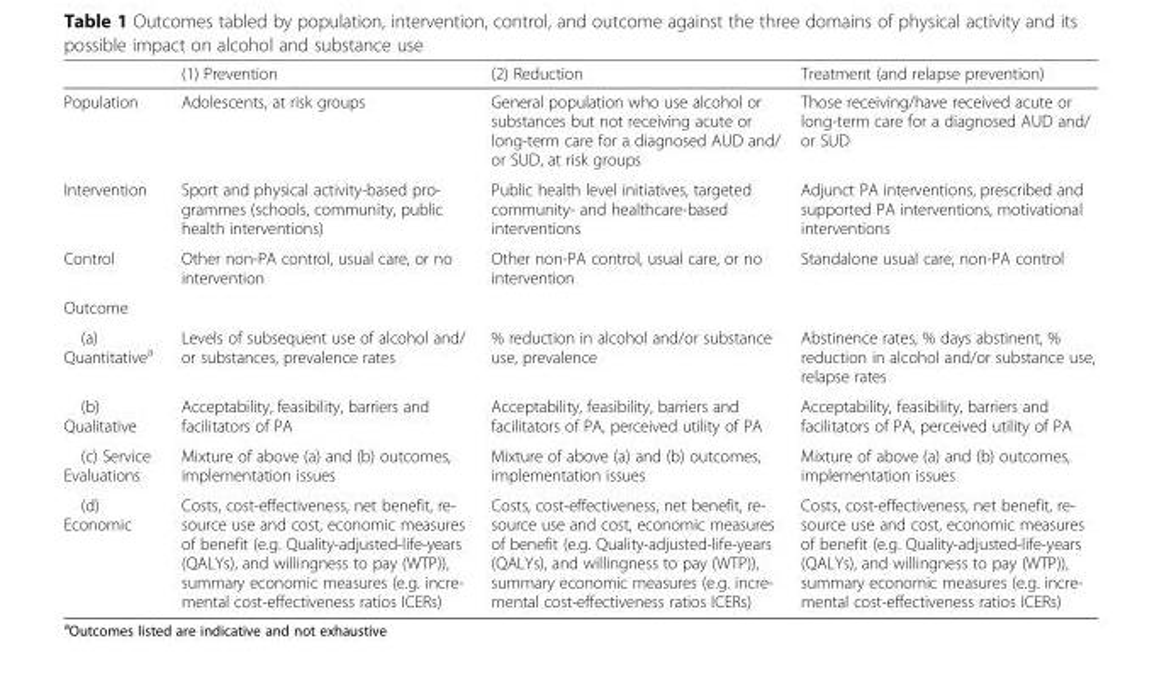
<table><thead><tr><td></td><td>(1) Prevention</td><td>(2) Reduction</td><td>Treatment (and relapse prevention)</td></tr></thead><tbody><tr><td>Population</td><td>Adolescents, at risk groups</td><td>General population who use alcohol or substances but not receiving acute or long-term care for a diagnosed AUD and/ or SUD, at risk groups</td><td>Those receiving/have received acute or long-term care for a diagnosed AUD and/ or SUD</td></tr><tr><td>Intervention</td><td>Sport and physical activity-based pro- grammes (schools, community, public health interventions)</td><td>Public health level initiatives, targeted community- and healthcare-based interventions</td><td>Adjunct PA interventions, prescribed and supported PA interventions, motivational interventions</td></tr><tr><td>Control</td><td>Other non-PA control, usual care, or no intervention</td><td>Other non-PA control, usual care, or no intervention</td><td>Standalone usual care, non-PA control</td></tr><tr><td colspan="4">Outcome</td></tr><tr><td>(a) Quantitative<sup>a</sup></td><td>Levels of subsequent use of alcohol and/ or substances, prevalence rates</td><td>% reduction in alcohol and/or substance use, prevalence</td><td>Abstinence rates, % days abstinent, % reduction in alcohol and/or substance use, relapse rates</td></tr><tr><td>(b) Qualitative</td><td>Acceptability, feasibility, barriers and facilitators of PA</td><td>Acceptability, feasibility, barriers and facilitators of PA, perceived utility of PA</td><td>Acceptability, feasibility, barriers and facilitators of PA, perceived utility of PA</td></tr><tr><td>(c) Service Evaluations</td><td>Mixture of above (a) and (b) outcomes, implementation issues</td><td>Mixture of above (a) and (b) outcomes, implementation issues</td><td>Mixture of above (a) and (b) outcomes, implementation issues</td></tr><tr><td>(d) Economic</td><td>Costs, cost-effectiveness, net benefit, re- source use and cost, economic measures of benefit (e.g. Quality-adjusted-life-years (QALYs), and willingness to pay (WTP)), summary economic measures (e.g. incre- mental cost-effectiveness ratios ICERs)</td><td>Costs, cost-effectiveness, net benefit, re- source use and cost, economic measures of benefit (e.g. Quality-adjusted-life-years (QALYs), and willingness to pay (WTP)), summary economic measures (e.g. incre- mental cost-effectiveness ratios ICERs)</td><td>Costs, cost-effectiveness, net benefit, re- source use and cost, economic measures of benefit (e.g. Quality-adjusted-life-years (QALYs), and willingness to pay (WTP)), summary economic measures (e.g. incre- mental cost-effectiveness ratios ICERs)</td></tr></tbody></table>